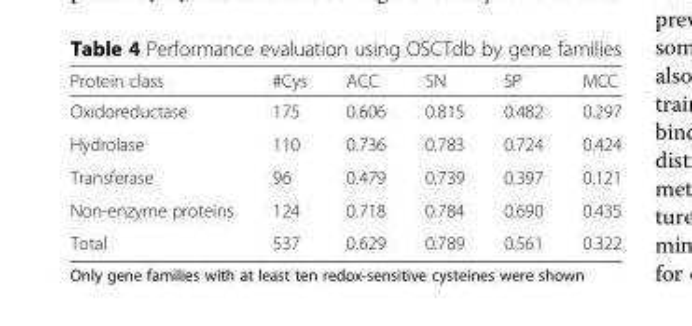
<table><thead><tr><td>Protein class</td><td>#Cys</td><td>ACC</td><td>SN</td><td>SP</td><td>MCC</td></tr></thead><tbody><tr><td>Oxidoreductase</td><td>175</td><td>0.606</td><td>0.815</td><td>0.482</td><td>0.297</td></tr><tr><td>Hydrolase</td><td>110</td><td>0.736</td><td>0.783</td><td>0.724</td><td>0.424</td></tr><tr><td>Transferase</td><td>96</td><td>0.479</td><td>0.739</td><td>0.397</td><td>0.121</td></tr><tr><td>Non-enzyme proteins</td><td>124</td><td>0.718</td><td>0.784</td><td>0.690</td><td>0.435</td></tr><tr><td>Total</td><td>537</td><td>0.629</td><td>0.789</td><td>0.561</td><td>0.322</td></tr></tbody></table>